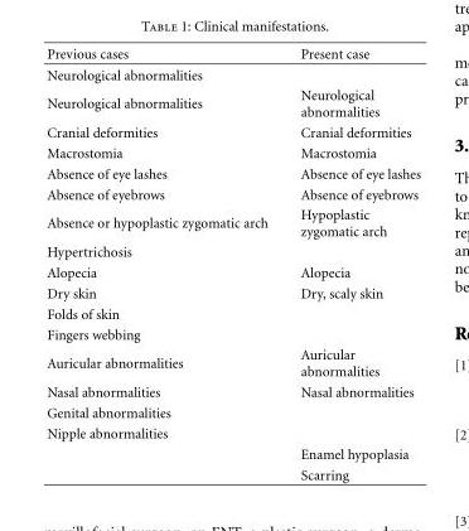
<table><thead><tr><td>Previous cases</td><td>Present case</td></tr></thead><tbody><tr><td colspan="2">Neurological abnormalities</td></tr><tr><td>Neurological abnormalities</td><td>Neurological abnormalities</td></tr><tr><td>Cranial deformities</td><td>Cranial deformities</td></tr><tr><td>Macrostomia</td><td>Macrostomia</td></tr><tr><td>Absence of eye lashes</td><td>Absence of eye lashes</td></tr><tr><td>Absence of eyebrows</td><td>Absence of eyebrows</td></tr><tr><td>Absence or hypoplastic zygomatic arch</td><td>Hypoplastic zygomatic arch</td></tr><tr><td colspan="2">Hypertrichosis</td></tr><tr><td>Alopecia</td><td>Alopecia</td></tr><tr><td>Dry skin</td><td>Dry, scaly skin</td></tr><tr><td colspan="2">Folds of skin</td></tr><tr><td colspan="2">Fingers webbing</td></tr><tr><td>Auricular abnormalities</td><td>Auricular abnormalities</td></tr><tr><td>Nasal abnormalities</td><td>Nasal abnormalities</td></tr><tr><td colspan="2">Genital abnormalities</td></tr><tr><td colspan="2">Nipple abnormalities</td></tr><tr><td></td><td>Enamel hypoplasia</td></tr><tr><td></td><td>Scarring</td></tr></tbody></table>